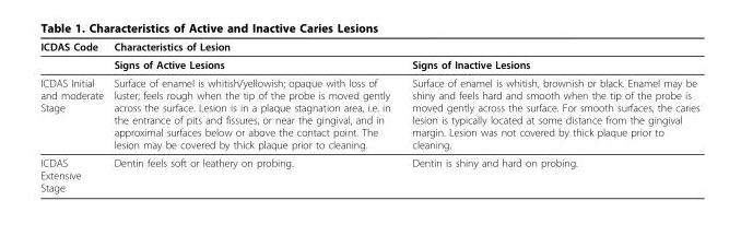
<table><thead><tr><td rowspan="2">ICDAS Code</td><td colspan="2">Characteristics of Lesion</td></tr><tr><td>Signs of Active Lesions</td><td>Signs of Inactive Lesions</td></tr></thead><tbody><tr><td>ICDAS Initial and moderate Stage</td><td>Surface of enamel is whitish/yellowish; opaque with loss of luster; feels rough when the tip of the probe is moved gently across the surface. Lesion is in a plaque stagnation area, i.e. in the entrance of pits and fissures, or near the gingival, and in approximal surfaces below or above the contact point. The lesion may be covered by thick plaque prior to cleaning.</td><td>Surface of enamel is whitish, brownish or black. Enamel may be shiny and feels hard and smooth when the tip of the probe is moved gently across the surface. For smooth surfaces, the caries lesion is typically located at some distance from the gingival margin. Lesion was not covered by thick plaque prior to cleaning.</td></tr><tr><td>ICDAS Extensive Stage</td><td>Dentin feels soft or leathery on probing.</td><td>Dentin is shiny and hard on probing.</td></tr></tbody></table>